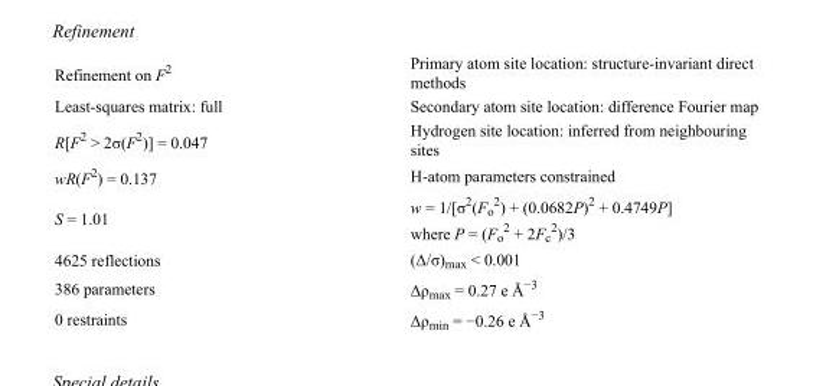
<table><tbody><tr><td>Refinement on F<sup>2</sup></td><td>Primary atom site location: structure-invariant direct methods</td></tr><tr><td>Least-squares matrix: full</td><td>Secondary atom site location: difference Fourier map</td></tr><tr><td>R[F<sup>2</sup> &gt; 2σ(F<sup>2</sup>)] = 0.047</td><td>Hydrogen site location: inferred from neighbouring sites</td></tr><tr><td>wR(F<sup>2</sup>) = 0.137</td><td>H-atom parameters constrained</td></tr><tr><td>S = 1.01</td><td>w = 1/[σ<sup>2</sup>(F<sub>o</sub> <sup>2</sup>) + (0.0682P)<sup>2</sup> + 0.4749P] where P = (F<sub>o</sub> <sup>2</sup> + 2F<sub>c</sub> <sup>2</sup>)/3</td></tr><tr><td>4625 reflections</td><td>(Δ/σ)<sub>max</sub> &lt; 0.001</td></tr><tr><td>386 parameters</td><td>Δρ<sub>max</sub> = 0.27 e Å<sup>−3</sup></td></tr><tr><td>0 restraints</td><td>Δρ<sub>min</sub> = −0.26 e Å<sup>−3</sup></td></tr></tbody></table>